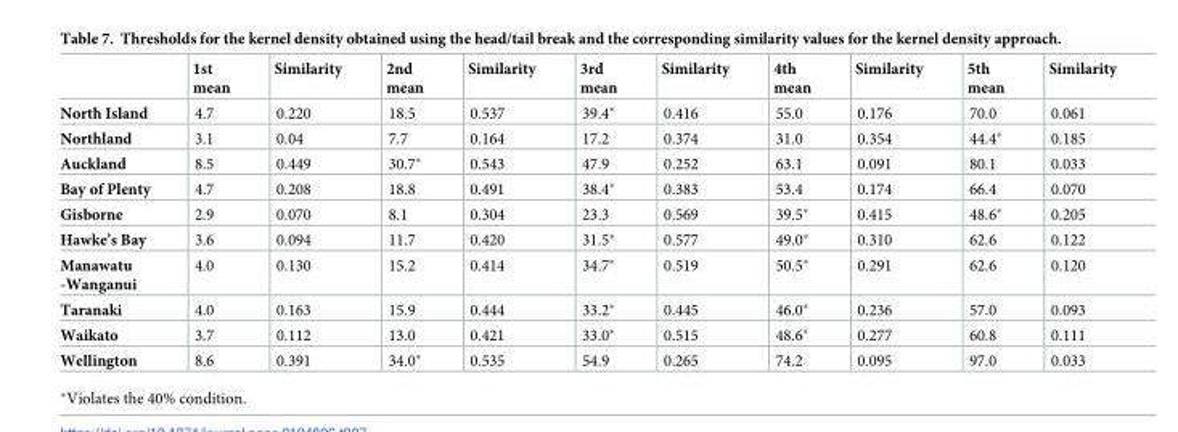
<table><thead><tr><td></td><td>1st mean</td><td>Similarity</td><td>2nd mean</td><td>Similarity</td><td>3rd mean</td><td>Similarity</td><td>4th mean</td><td>Similarity</td><td>5th mean</td><td>Similarity</td></tr></thead><tbody><tr><td>North Island</td><td>4.7</td><td>0.220</td><td>18.5</td><td>0.537</td><td>39.4*</td><td>0.416</td><td>55.0</td><td>0.176</td><td>70.0</td><td>0.061</td></tr><tr><td>Northland</td><td>3.1</td><td>0.04</td><td>7.7</td><td>0.164</td><td>17.2</td><td>0.374</td><td>31.0</td><td>0.354</td><td>44.4*</td><td>0.185</td></tr><tr><td>Auckland</td><td>8.5</td><td>0.449</td><td>30.7*</td><td>0.543</td><td>47.9</td><td>0.252</td><td>63.1</td><td>0.091</td><td>80.1</td><td>0.033</td></tr><tr><td>Bay of Plenty</td><td>4.7</td><td>0.208</td><td>18.8</td><td>0.491</td><td>38.4*</td><td>0.383</td><td>53.4</td><td>0.174</td><td>66.4</td><td>0.070</td></tr><tr><td>Gisborne</td><td>2.9</td><td>0.070</td><td>8.1</td><td>0.304</td><td>23.3</td><td>0.569</td><td>39.5*</td><td>0.415</td><td>48.6*</td><td>0.205</td></tr><tr><td>Hawke’s Bay</td><td>3.6</td><td>0.094</td><td>11.7</td><td>0.420</td><td>31.5*</td><td>0.577</td><td>49.0*</td><td>0.310</td><td>62.6</td><td>0.122</td></tr><tr><td>Manawatu -Wanganui</td><td>4.0</td><td>0.130</td><td>15.2</td><td>0.414</td><td>34.7*</td><td>0.519</td><td>50.5*</td><td>0.291</td><td>62.6</td><td>0.120</td></tr><tr><td>Taranaki</td><td>4.0</td><td>0.163</td><td>15.9</td><td>0.444</td><td>33.2*</td><td>0.445</td><td>46.0*</td><td>0.236</td><td>57.0</td><td>0.093</td></tr><tr><td>Waikato</td><td>3.7</td><td>0.112</td><td>13.0</td><td>0.421</td><td>33.0*</td><td>0.515</td><td>48.6*</td><td>0.277</td><td>60.8</td><td>0.111</td></tr><tr><td>Wellington</td><td>8.6</td><td>0.391</td><td>34.0*</td><td>0.535</td><td>54.9</td><td>0.265</td><td>74.2</td><td>0.095</td><td>97.0</td><td>0.033</td></tr></tbody></table>